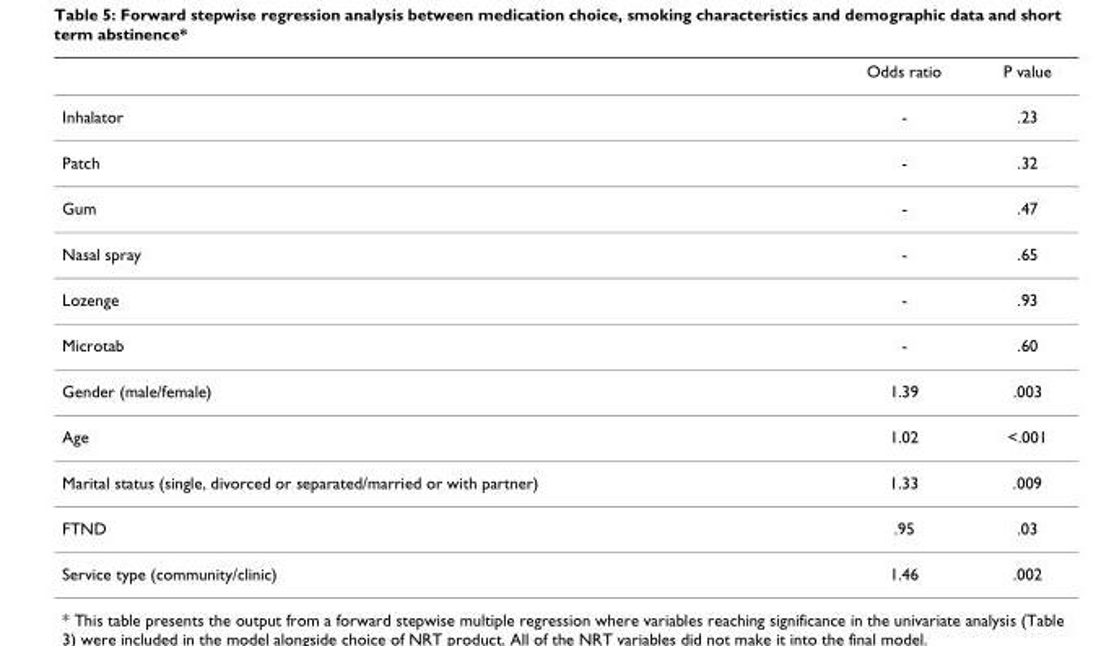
<table><thead><tr><td></td><td>Odds ratio</td><td>P value</td></tr></thead><tbody><tr><td>Inhalator</td><td>-</td><td>.23</td></tr><tr><td>Patch</td><td>-</td><td>.32</td></tr><tr><td>Gum</td><td>-</td><td>.47</td></tr><tr><td>Nasal spray</td><td>-</td><td>.65</td></tr><tr><td>Lozenge</td><td>-</td><td>.93</td></tr><tr><td>Microtab</td><td>-</td><td>.60</td></tr><tr><td>Gender (male/female)</td><td>1.39</td><td>.003</td></tr><tr><td>Age</td><td>1.02</td><td>&lt;.001</td></tr><tr><td>Marital status (single, divorced or separated/married or with partner)</td><td>1.33</td><td>.009</td></tr><tr><td>FTND</td><td>.95</td><td>.03</td></tr><tr><td>Service type (community/clinic)</td><td>1.46</td><td>.002</td></tr></tbody></table>